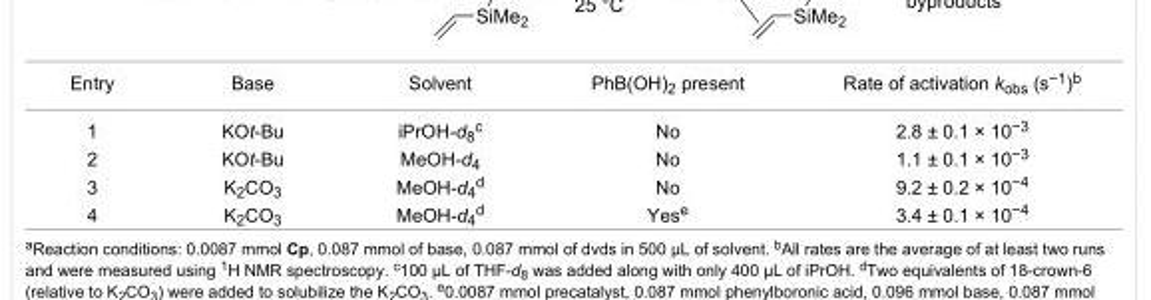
<table><tbody><tr><td>Entry</td><td>Base</td><td>Solvent</td><td>PhB(OH)<sub>2</sub> present</td><td>Rate of activation k<sub>obs</sub> (s<sup>−1</sup>)<sup>b</sup></td></tr><tr><td>1</td><td>KOt-Bu</td><td>iPrOH-d<sub>8</sub><sup>c</sup></td><td>No</td><td>2.8 ± 0.1 × 10<sup>−3</sup></td></tr><tr><td>2</td><td>KOt-Bu</td><td>MeOH-d<sub>4</sub></td><td>No</td><td>1.1 ± 0.1 × 10<sup>−3</sup></td></tr><tr><td>3</td><td>K<sub>2</sub>CO<sub>3</sub></td><td>MeOH-d<sub>4</sub><sup>d</sup></td><td>No</td><td>9.2 ± 0.2 × 10<sup>−4</sup></td></tr><tr><td>4</td><td>K<sub>2</sub>CO<sub>3</sub></td><td>MeOH-d<sub>4</sub><sup>d</sup></td><td>Yes<sup>e</sup></td><td>3.4 ± 0.1 × 10<sup>−4</sup></td></tr></tbody></table>